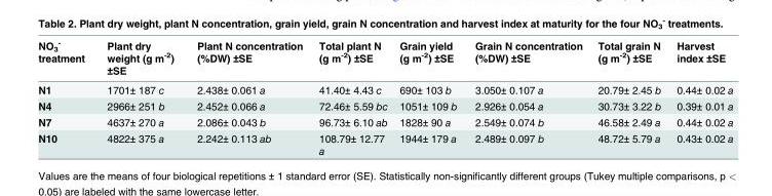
<table><thead><tr><td>NO<sub>3</sub> <sup>-</sup> treatment</td><td>Plant dry weight (g m<sup>-2</sup>) ±SE</td><td>Plant N concentration (%DW) ±SE</td><td>Total plant N (g m<sup>-2</sup>) ±SE</td><td>Grain yield (g m<sup>-2</sup>) ±SE</td><td>Grain N concentration (%DW) ±SE</td><td>Total grain N (g m<sup>-2</sup>) ±SE</td><td>Harvest index ±SE</td></tr></thead><tbody><tr><td>N1</td><td>1701± 187 c</td><td>2.438± 0.061 a</td><td>41.40± 4.43 c</td><td>690± 103 b</td><td>3.050± 0.107 a</td><td>20.79± 2.45 b</td><td>0.44± 0.02 a</td></tr><tr><td>N4</td><td>2966± 251 b</td><td>2.452± 0.066 a</td><td>72.46± 5.59 bc</td><td>1051± 109 b</td><td>2.926± 0.054 a</td><td>30.73± 3.22 b</td><td>0.39± 0.01 a</td></tr><tr><td>N7</td><td>4637± 270 a</td><td>2.086± 0.043 b</td><td>96.73± 6.10 ab</td><td>1828± 90 a</td><td>2.549± 0.074 b</td><td>46.58± 2.49 a</td><td>0.44± 0.02 a</td></tr><tr><td>N10</td><td>4822± 375 a</td><td>2.242± 0.113 ab</td><td>108.79± 12.77 a</td><td>1944± 179 a</td><td>2.489± 0.097 b</td><td>48.72± 5.79 a</td><td>0.43± 0.02 a</td></tr></tbody></table>